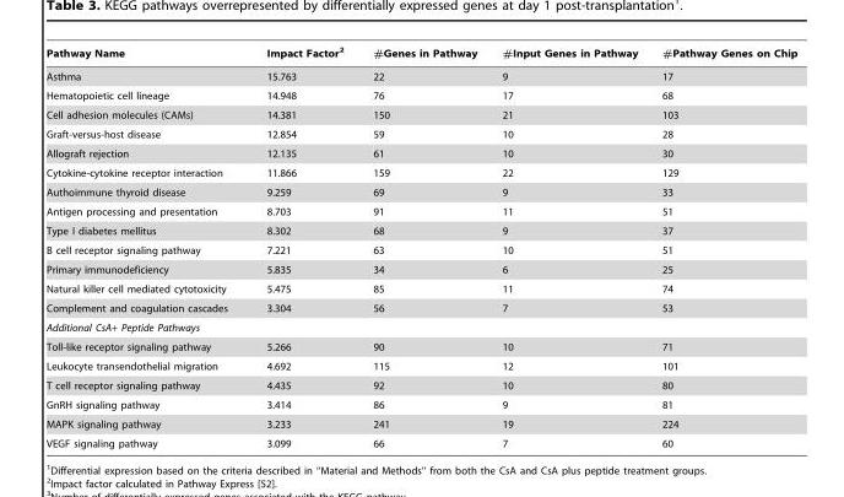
<table><thead><tr><td>Pathway Name</td><td>Impact Factor<sup>2</sup></td><td>#Genes in Pathway</td><td>#Input Genes in Pathway</td><td>#Pathway Genes on Chip</td></tr></thead><tbody><tr><td>Asthma</td><td>15.763</td><td>22</td><td>9</td><td>17</td></tr><tr><td>Hematopoietic cell lineage</td><td>14.948</td><td>76</td><td>17</td><td>68</td></tr><tr><td>Cell adhesion molecules (CAMs)</td><td>14.381</td><td>150</td><td>21</td><td>103</td></tr><tr><td>Graft-versus-host disease</td><td>12.854</td><td>59</td><td>10</td><td>28</td></tr><tr><td>Allograft rejection</td><td>12.135</td><td>61</td><td>10</td><td>30</td></tr><tr><td>Cytokine-cytokine receptor interaction</td><td>11.866</td><td>159</td><td>22</td><td>129</td></tr><tr><td>Authoimmune thyroid disease</td><td>9.259</td><td>69</td><td>9</td><td>33</td></tr><tr><td>Antigen processing and presentation</td><td>8.703</td><td>91</td><td>11</td><td>51</td></tr><tr><td>Type I diabetes mellitus</td><td>8.302</td><td>68</td><td>9</td><td>37</td></tr><tr><td>B cell receptor signaling pathway</td><td>7.221</td><td>63</td><td>10</td><td>51</td></tr><tr><td>Primary immunodeficiency</td><td>5.835</td><td>34</td><td>6</td><td>25</td></tr><tr><td>Natural killer cell mediated cytotoxicity</td><td>5.475</td><td>85</td><td>11</td><td>74</td></tr><tr><td>Complement and coagulation cascades</td><td>3.304</td><td>56</td><td>7</td><td>53</td></tr><tr><td colspan="5">Additional CsA+ Peptide Pathways</td></tr><tr><td>Toll-like receptor signaling pathway</td><td>5.266</td><td>90</td><td>10</td><td>71</td></tr><tr><td>Leukocyte transendothelial migration</td><td>4.692</td><td>115</td><td>12</td><td>101</td></tr><tr><td>T cell receptor signaling pathway</td><td>4.435</td><td>92</td><td>10</td><td>80</td></tr><tr><td>GnRH signaling pathway</td><td>3.414</td><td>86</td><td>9</td><td>81</td></tr><tr><td>MAPK signaling pathway</td><td>3.233</td><td>241</td><td>19</td><td>224</td></tr><tr><td>VEGF signaling pathway</td><td>3.099</td><td>66</td><td>7</td><td>60</td></tr></tbody></table>